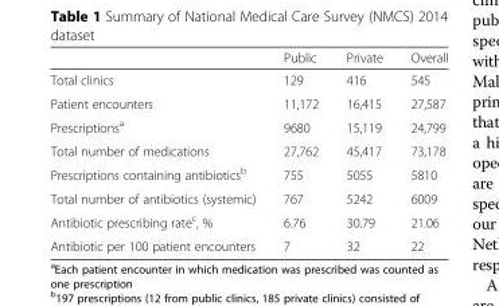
<table><thead><tr><td></td><td>Public</td><td>Private</td><td>Overall</td></tr></thead><tbody><tr><td>Total clinics</td><td>129</td><td>416</td><td>545</td></tr><tr><td>Patient encounters</td><td>11,172</td><td>16,415</td><td>27,587</td></tr><tr><td>Prescriptions<sup>a</sup></td><td>9680</td><td>15,119</td><td>24,799</td></tr><tr><td>Total number of medications</td><td>27,762</td><td>45,417</td><td>73,178</td></tr><tr><td>Prescriptions containing antibiotics<sup>b</sup></td><td>755</td><td>5055</td><td>5810</td></tr><tr><td>Total number of antibiotics (systemic)</td><td>767</td><td>5242</td><td>6009</td></tr><tr><td>Antibiotic prescribing rate<sup>c</sup>, %</td><td>6.76</td><td>30.79</td><td>21.06</td></tr><tr><td>Antibiotic per 100 patient encounters</td><td>7</td><td>32</td><td>22</td></tr></tbody></table>